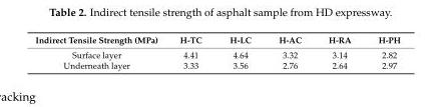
<table><thead><tr><td>Indirect Tensile Strength (MPa)</td><td>H-TC</td><td>H-LC</td><td>H-AC</td><td>H-RA</td><td>H-PH</td></tr></thead><tbody><tr><td>Surface layer</td><td>4.41</td><td>4.64</td><td>3.32</td><td>3.14</td><td>2.82</td></tr><tr><td>Underneath layer</td><td>3.33</td><td>3.56</td><td>2.76</td><td>2.64</td><td>2.97</td></tr></tbody></table>